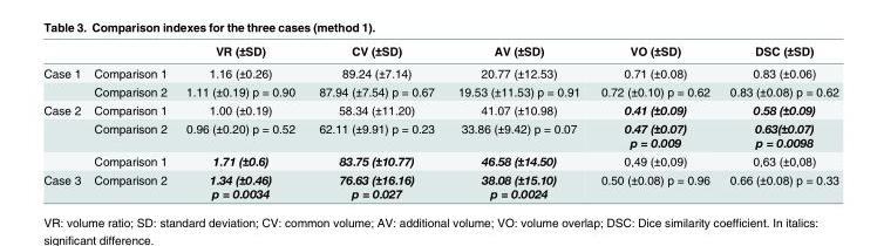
<table><thead><tr><td></td><td></td><td>VR (±SD)</td><td>CV (±SD)</td><td>AV (±SD)</td><td>VO (±SD)</td><td>DSC (±SD)</td></tr></thead><tbody><tr><td rowspan="2">Case 1</td><td>Comparison 1</td><td>1.16 (±0.26)</td><td>89.24 (±7.14)</td><td>20.77 (±12.53)</td><td>0.71 (±0.08)</td><td>0.83 (±0.06)</td></tr><tr><td>Comparison 2</td><td>1.11 (±0.19) p = 0.90</td><td>87.94 (±7.54) p = 0.67</td><td>19.53 (±11.53) p = 0.91</td><td>0.72 (±0.10) p = 0.62</td><td>0.83 (±0.08) p = 0.62</td></tr><tr><td rowspan="3">Case 2</td><td>Comparison 1</td><td>1.00 (±0.19)</td><td>58.34 (±11.20)</td><td>41.07 (±10.98)</td><td>0.41 (±0.09)</td><td>0.58 (±0.09)</td></tr><tr><td>Comparison 2</td><td>0.96 (±0.20) p = 0.52</td><td>62.11 (±9.91) p = 0.23</td><td>33.86 (±9.42) p = 0.07</td><td>0.47 (±0.07) p = 0.009</td><td>0.63(±0.07) p = 0.0098</td></tr><tr><td>Comparison 1</td><td>1.71 (±0.6)</td><td>83.75 (±10.77)</td><td>46.58 (±14.50)</td><td>0,49 (±0,09)</td><td>0,63 (±0,08)</td></tr><tr><td>Case 3</td><td>Comparison 2</td><td>1.34 (±0.46) p = 0.0034</td><td>76.63 (±16.16) p = 0.027</td><td>38.08 (±15.10) p = 0.0024</td><td>0.50 (±0.08) p = 0.96</td><td>0.66 (±0.08) p = 0.33</td></tr></tbody></table>